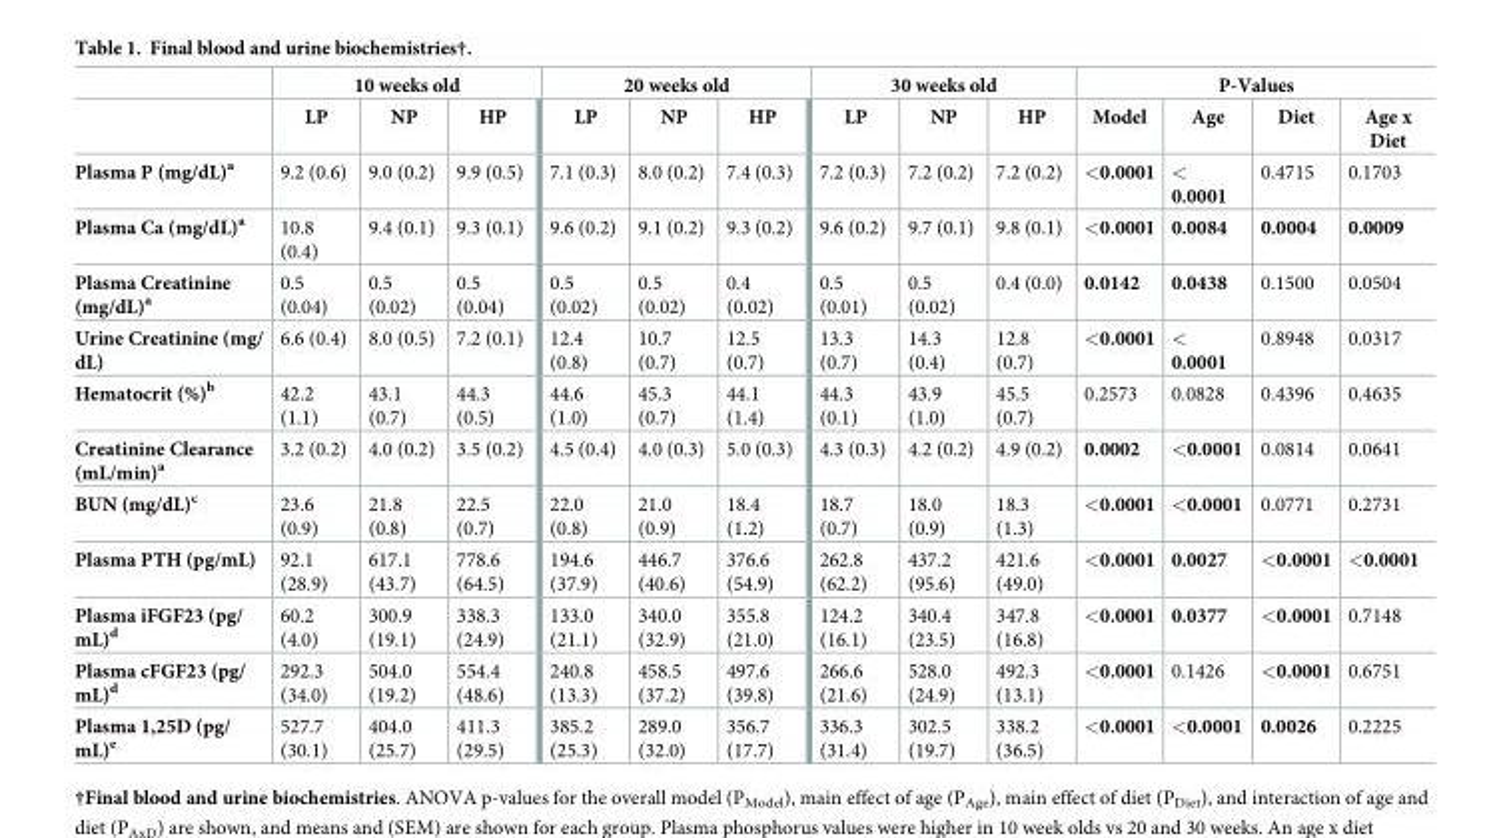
<table><thead><tr><td rowspan="2"></td><td colspan="3">10 weeks old</td><td colspan="3">20 weeks old</td><td colspan="3">30 weeks old</td><td colspan="4">P-Values</td></tr><tr><td>LP</td><td>NP</td><td>HP</td><td>LP</td><td>NP</td><td>HP</td><td>LP</td><td>NP</td><td>HP</td><td>Model</td><td>Age</td><td>Diet</td><td>Age x Diet</td></tr></thead><tbody><tr><td>Plasma P (mg/dL)<sup>a</sup></td><td>9.2 (0.6)</td><td>9.0 (0.2)</td><td>9.9 (0.5)</td><td>7.1 (0.3)</td><td>8.0 (0.2)</td><td>7.4 (0.3)</td><td>7.2 (0.3)</td><td>7.2 (0.2)</td><td>7.2 (0.2)</td><td>&lt;0.0001</td><td>&lt; 0.0001</td><td>0.4715</td><td>0.1703</td></tr><tr><td>Plasma Ca (mg/dL)<sup>a</sup></td><td>10.8 (0.4)</td><td>9.4 (0.1)</td><td>9.3 (0.1)</td><td>9.6 (0.2)</td><td>9.1 (0.2)</td><td>9.3 (0.2)</td><td>9.6 (0.2)</td><td>9.7 (0.1)</td><td>9.8 (0.1)</td><td>&lt;0.0001</td><td>0.0084</td><td>0.0004</td><td>0.0009</td></tr><tr><td>Plasma Creatinine (mg/dL)<sup>a</sup></td><td>0.5 (0.04)</td><td>0.5 (0.02)</td><td>0.5 (0.04)</td><td>0.5 (0.02)</td><td>0.5 (0.02)</td><td>0.4 (0.02)</td><td>0.5 (0.01)</td><td>0.5 (0.02)</td><td>0.4 (0.0)</td><td>0.0142</td><td>0.0438</td><td>0.1500</td><td>0.0504</td></tr><tr><td>Urine Creatinine (mg/ dL)</td><td>6.6 (0.4)</td><td>8.0 (0.5)</td><td>7.2 (0.1)</td><td>12.4 (0.8)</td><td>10.7 (0.7)</td><td>12.5 (0.7)</td><td>13.3 (0.7)</td><td>14.3 (0.4)</td><td>12.8 (0.7)</td><td>&lt;0.0001</td><td>&lt; 0.0001</td><td>0.8948</td><td>0.0317</td></tr><tr><td>Hematocrit (%)<sup>b</sup></td><td>42.2 (1.1)</td><td>43.1 (0.7)</td><td>44.3 (0.5)</td><td>44.6 (1.0)</td><td>45.3 (0.7)</td><td>44.1 (1.4)</td><td>44.3 (0.1)</td><td>43.9 (1.0)</td><td>45.5 (0.7)</td><td>0.2573</td><td>0.0828</td><td>0.4396</td><td>0.4635</td></tr><tr><td>Creatinine Clearance (mL/min)<sup>a</sup></td><td>3.2 (0.2)</td><td>4.0 (0.2)</td><td>3.5 (0.2)</td><td>4.5 (0.4)</td><td>4.0 (0.3)</td><td>5.0 (0.3)</td><td>4.3 (0.3)</td><td>4.2 (0.2)</td><td>4.9 (0.2)</td><td>0.0002</td><td>&lt;0.0001</td><td>0.0814</td><td>0.0641</td></tr><tr><td>BUN (mg/dL)<sup>c</sup></td><td>23.6 (0.9)</td><td>21.8 (0.8)</td><td>22.5 (0.7)</td><td>22.0 (0.8)</td><td>21.0 (0.9)</td><td>18.4 (1.2)</td><td>18.7 (0.7)</td><td>18.0 (0.9)</td><td>18.3 (1.3)</td><td>&lt;0.0001</td><td>&lt;0.0001</td><td>0.0771</td><td>0.2731</td></tr><tr><td>Plasma PTH (pg/mL)</td><td>92.1 (28.9)</td><td>617.1 (43.7)</td><td>778.6 (64.5)</td><td>194.6 (37.9)</td><td>446.7 (40.6)</td><td>376.6 (54.9)</td><td>262.8 (62.2)</td><td>437.2 (95.6)</td><td>421.6 (49.0)</td><td>&lt;0.0001</td><td>0.0027</td><td>&lt;0.0001</td><td>&lt;0.0001</td></tr><tr><td>Plasma iFGF23 (pg/ mL)<sup>d</sup></td><td>60.2 (4.0)</td><td>300.9 (19.1)</td><td>338.3 (24.9)</td><td>133.0 (21.1)</td><td>340.0 (32.9)</td><td>355.8 (21.0)</td><td>124.2 (16.1)</td><td>340.4 (23.5)</td><td>347.8 (16.8)</td><td>&lt;0.0001</td><td>0.0377</td><td>&lt;0.0001</td><td>0.7148</td></tr><tr><td>Plasma cFGF23 (pg/ mL)<sup>d</sup></td><td>292.3 (34.0)</td><td>504.0 (19.2)</td><td>554.4 (48.6)</td><td>240.8 (13.3)</td><td>458.5 (37.2)</td><td>497.6 (39.8)</td><td>266.6 (21.6)</td><td>528.0 (24.9)</td><td>492.3 (13.1)</td><td>&lt;0.0001</td><td>0.1426</td><td>&lt;0.0001</td><td>0.6751</td></tr><tr><td>Plasma 1,25D (pg/ mL)<sup>e</sup></td><td>527.7 (30.1)</td><td>404.0 (25.7)</td><td>411.3 (29.5)</td><td>385.2 (25.3)</td><td>289.0 (32.0)</td><td>356.7 (17.7)</td><td>336.3 (31.4)</td><td>302.5 (19.7)</td><td>338.2 (36.5)</td><td>&lt;0.0001</td><td>&lt;0.0001</td><td>0.0026</td><td>0.2225</td></tr></tbody></table>